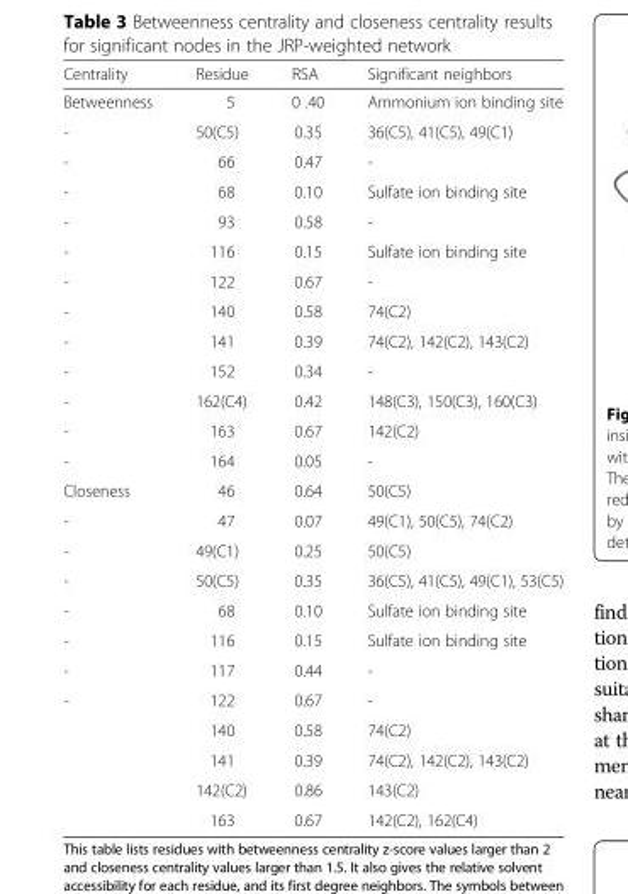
<table><thead><tr><td>Centrality</td><td>Residue</td><td>RSA</td><td>Significant neighbors</td></tr></thead><tbody><tr><td>Betweenness</td><td>5</td><td>0 .40</td><td>Ammonium ion binding site</td></tr><tr><td>-</td><td>50(C5)</td><td>0.35</td><td>36(C5), 41(C5), 49(C1)</td></tr><tr><td>-</td><td>66</td><td>0.47</td><td>-</td></tr><tr><td>-</td><td>68</td><td>0.10</td><td>Sulfate ion binding site</td></tr><tr><td>-</td><td>93</td><td>0.58</td><td>-</td></tr><tr><td>-</td><td>116</td><td>0.15</td><td>Sulfate ion binding site</td></tr><tr><td>-</td><td>122</td><td>0.67</td><td>-</td></tr><tr><td>-</td><td>140</td><td>0.58</td><td>74(C2)</td></tr><tr><td>-</td><td>141</td><td>0.39</td><td>74(C2), 142(C2), 143(C2)</td></tr><tr><td>-</td><td>152</td><td>0.34</td><td>-</td></tr><tr><td>-</td><td>162(C4)</td><td>0.42</td><td>148(C3), 150(C3), 160(C3)</td></tr><tr><td>-</td><td>163</td><td>0.67</td><td>142(C2)</td></tr><tr><td>-</td><td>164</td><td>0.05</td><td>-</td></tr><tr><td>Closeness</td><td>46</td><td>0.64</td><td>50(C5)</td></tr><tr><td>-</td><td>47</td><td>0.07</td><td>49(C1), 50(C5), 74(C2)</td></tr><tr><td>-</td><td>49(C1)</td><td>0.25</td><td>50(C5)</td></tr><tr><td>-</td><td>50(C5)</td><td>0.35</td><td>36(C5), 41(C5), 49(C1), 53(C5)</td></tr><tr><td>-</td><td>68</td><td>0.10</td><td>Sulfate ion binding site</td></tr><tr><td>-</td><td>116</td><td>0.15</td><td>Sulfate ion binding site</td></tr><tr><td>-</td><td>117</td><td>0.44</td><td>-</td></tr><tr><td rowspan="5">-</td><td>122</td><td>0.67</td><td>-</td></tr><tr><td>140</td><td>0.58</td><td>74(C2)</td></tr><tr><td>141</td><td>0.39</td><td>74(C2), 142(C2), 143(C2)</td></tr><tr><td>142(C2)</td><td>0.86</td><td>143(C2)</td></tr><tr><td>163</td><td>0.67</td><td>142(C2), 162(C4)</td></tr></tbody></table>